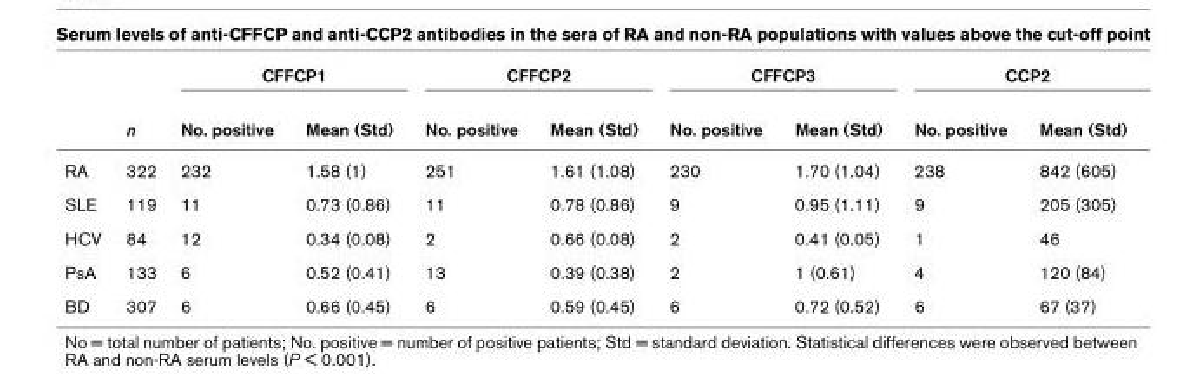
<table><thead><tr><td rowspan="2"></td><td rowspan="2">n</td><td colspan="2">CFFCP1</td><td colspan="2">CFFCP2</td><td colspan="2">CFFCP3</td><td colspan="2">CCP2</td></tr><tr><td>No. positive</td><td>Mean (Std)</td><td>No. positive</td><td>Mean (Std)</td><td>No. positive</td><td>Mean (Std)</td><td>No. positive</td><td>Mean (Std)</td></tr></thead><tbody><tr><td>RA</td><td>322</td><td>232</td><td>1.58 (1)</td><td>251</td><td>1.61 (1.08)</td><td>230</td><td>1.70 (1.04)</td><td>238</td><td>842 (605)</td></tr><tr><td>SLE</td><td>119</td><td>11</td><td>0.73 (0.86)</td><td>11</td><td>0.78 (0.86)</td><td>9</td><td>0.95 (1.11)</td><td>9</td><td>205 (305)</td></tr><tr><td>HCV</td><td>84</td><td>12</td><td>0.34 (0.08)</td><td>2</td><td>0.66 (0.08)</td><td>2</td><td>0.41 (0.05)</td><td>1</td><td>46</td></tr><tr><td>PsA</td><td>133</td><td>6</td><td>0.52 (0.41)</td><td>13</td><td>0.39 (0.38)</td><td>2</td><td>1 (0.61)</td><td>4</td><td>120 (84)</td></tr><tr><td>BD</td><td>307</td><td>6</td><td>0.66 (0.45)</td><td>6</td><td>0.59 (0.45)</td><td>6</td><td>0.72 (0.52)</td><td>6</td><td>67 (37)</td></tr></tbody></table>